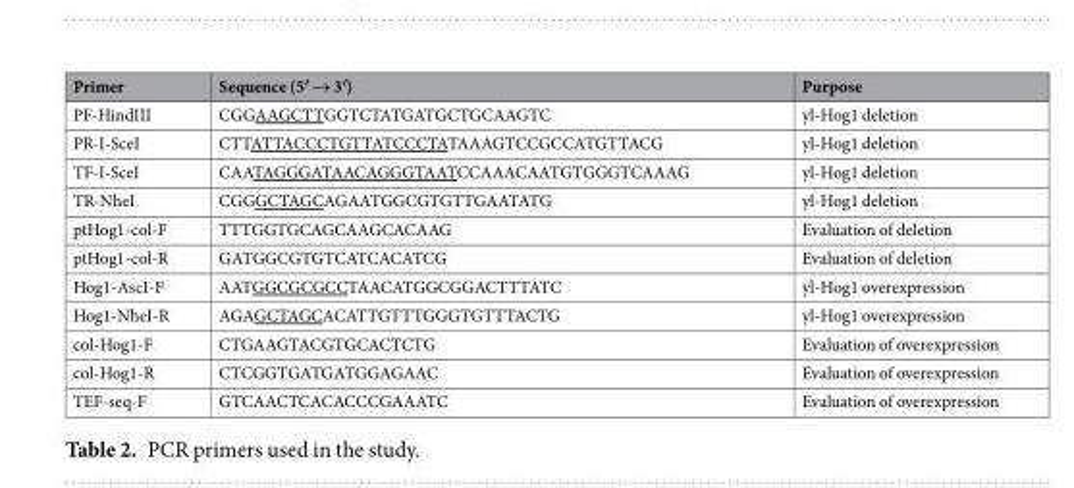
<table><thead><tr><td>Primer</td><td>Sequence (5′ → 3′)</td><td>Purpose</td></tr></thead><tbody><tr><td>PF-HindIII</td><td>CGGAAGCTTGGTCTATGATGCTGCAAGTC</td><td>yl-Hog1 deletion</td></tr><tr><td>PR-I-SceI</td><td>CTTATTACCCTGTTATCCCTATAAAGTCCGCCATGTTACG</td><td>yl-Hog1 deletion</td></tr><tr><td>TF-I-SceI</td><td>CAATAGGGATAACAGGGTAATCCAAACAATGTGGGTCAAAG</td><td>yl-Hog1 deletion</td></tr><tr><td>TR-NheI</td><td>CGGGCTAGCAGAATGGCGTGTTGAATATG</td><td>yl-Hog1 deletion</td></tr><tr><td>ptHog1-col-F</td><td>TTTGGTGCAGCAAGCACAAG</td><td>Evaluation of deletion</td></tr><tr><td>ptHog1-col-R</td><td>GATGGCGTGTCATCACATCG</td><td>Evaluation of deletion</td></tr><tr><td>Hog1-AscI-F</td><td>AATGGCGCGCCTAACATGGCGGACTTTATC</td><td>yl-Hog1 overexpression</td></tr><tr><td>Hog1-NheI-R</td><td>AGAGCTAGCACATTGTTTGGGTGTTTACTG</td><td>yl-Hog1 overexpression</td></tr><tr><td>col-Hog1-F</td><td>CTGAAGTACGTGCACTCTG</td><td>Evaluation of overexpression</td></tr><tr><td>col-Hog1-R</td><td>CTCGGTGATGATGGAGAAC</td><td>Evaluation of overexpression</td></tr><tr><td>TEF-seq-F</td><td>GTCAACTCACACCCGAAATC</td><td>Evaluation of overexpression</td></tr></tbody></table>